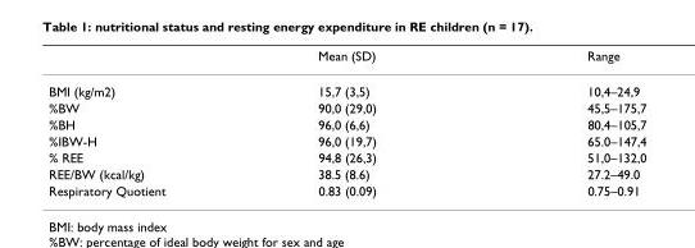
<table><thead><tr><td></td><td>Mean (SD)</td><td>Range</td></tr></thead><tbody><tr><td>BMI (kg/m2)</td><td>15,7 (3,5)</td><td>10,4–24,9</td></tr><tr><td>%BW</td><td>90,0 (29,0)</td><td>45,5–175,7</td></tr><tr><td>%BH</td><td>96,0 (6,6)</td><td>80,4–105,7</td></tr><tr><td>%IBW-H</td><td>96,0 (19,7)</td><td>65.0–147,4</td></tr><tr><td>% REE</td><td>94,8 (26,3)</td><td>51,0–132,0</td></tr><tr><td>REE/BW (kcal/kg)</td><td>38.5 (8.6)</td><td>27.2–49.0</td></tr><tr><td>Respiratory Quotient</td><td>0.83 (0.09)</td><td>0.75–0.91</td></tr></tbody></table>